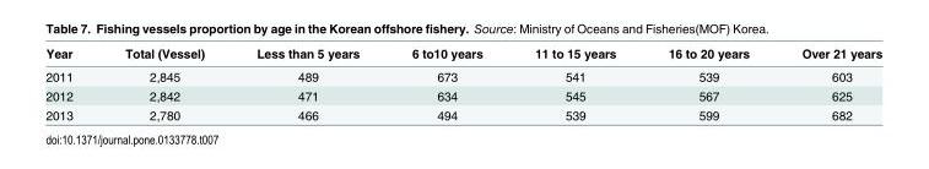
<table><thead><tr><td>Year</td><td>Total (Vessel)</td><td>Less than 5 years</td><td>6 to10 years</td><td>11 to 15 years</td><td>16 to 20 years</td><td>Over 21 years</td></tr></thead><tbody><tr><td>2011</td><td>2,845</td><td>489</td><td>673</td><td>541</td><td>539</td><td>603</td></tr><tr><td>2012</td><td>2,842</td><td>471</td><td>634</td><td>545</td><td>567</td><td>625</td></tr><tr><td>2013</td><td>2,780</td><td>466</td><td>494</td><td>539</td><td>599</td><td>682</td></tr></tbody></table>